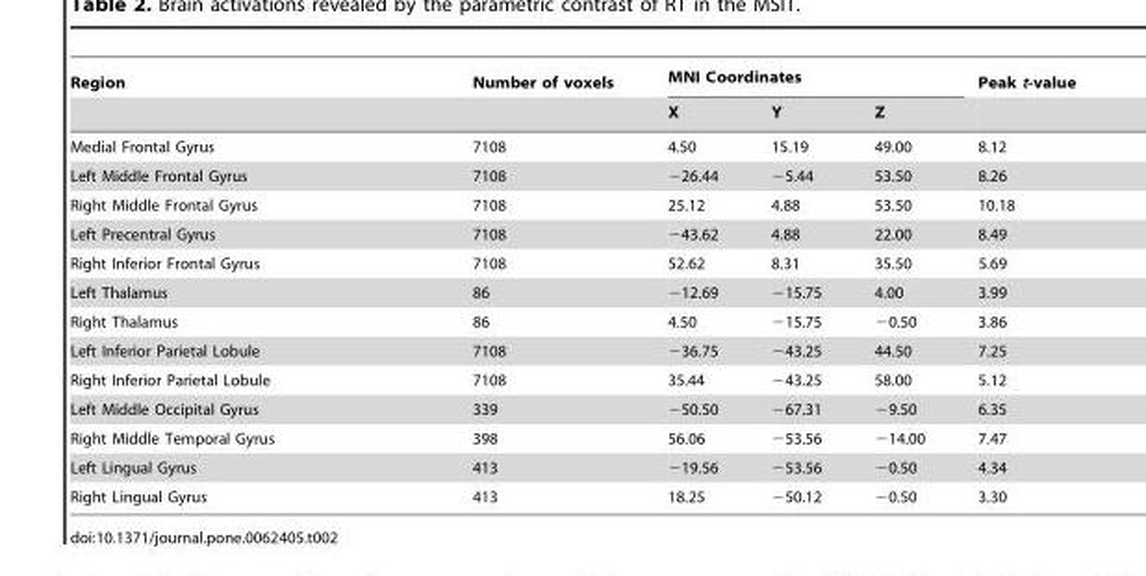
<table><thead><tr><td rowspan="2">Region</td><td rowspan="2">Number of voxels</td><td colspan="3">MNI Coordinates</td><td rowspan="2">Peak t-value</td></tr><tr><td>X</td><td>Y</td><td>Z</td></tr></thead><tbody><tr><td>Medial Frontal Gyrus</td><td>7108</td><td>4.50</td><td>15.19</td><td>49.00</td><td>8.12</td></tr><tr><td>Left Middle Frontal Gyrus</td><td>7108</td><td>−26.44</td><td>−5.44</td><td>53.50</td><td>8.26</td></tr><tr><td>Right Middle Frontal Gyrus</td><td>7108</td><td>25.12</td><td>4.88</td><td>53.50</td><td>10.18</td></tr><tr><td>Left Precentral Gyrus</td><td>7108</td><td>−43.62</td><td>4.88</td><td>22.00</td><td>8.49</td></tr><tr><td>Right Inferior Frontal Gyrus</td><td>7108</td><td>52.62</td><td>8.31</td><td>35.50</td><td>5.69</td></tr><tr><td>Left Thalamus</td><td>86</td><td>−12.69</td><td>−15.75</td><td>4.00</td><td>3.99</td></tr><tr><td>Right Thalamus</td><td>86</td><td>4.50</td><td>−15.75</td><td>−0.50</td><td>3.86</td></tr><tr><td>Left Inferior Parietal Lobule</td><td>7108</td><td>−36.75</td><td>−43.25</td><td>44.50</td><td>7.25</td></tr><tr><td>Right Inferior Parietal Lobule</td><td>7108</td><td>35.44</td><td>−43.25</td><td>58.00</td><td>5.12</td></tr><tr><td>Left Middle Occipital Gyrus</td><td>339</td><td>−50.50</td><td>−67.31</td><td>−9.50</td><td>6.35</td></tr><tr><td>Right Middle Temporal Gyrus</td><td>398</td><td>56.06</td><td>−53.56</td><td>−14.00</td><td>7.47</td></tr><tr><td>Left Lingual Gyrus</td><td>413</td><td>−19.56</td><td>−53.56</td><td>−0.50</td><td>4.34</td></tr><tr><td>Right Lingual Gyrus</td><td>413</td><td>18.25</td><td>−50.12</td><td>−0.50</td><td>3.30</td></tr></tbody></table>